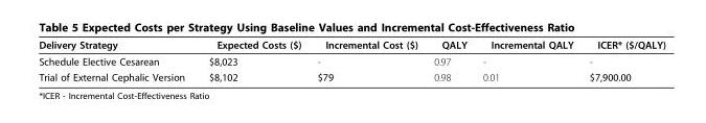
<table><thead><tr><td>Delivery Strategy</td><td>Expected Costs ($)</td><td>Incremental Cost ($)</td><td>QALY</td><td>Incremental QALY</td><td>ICER* ($/QALY)</td></tr></thead><tbody><tr><td>Schedule Elective Cesarean</td><td>$8,023</td><td>-</td><td>0.97</td><td>-</td><td>-</td></tr><tr><td>Trial of External Cephalic Version</td><td>$8,102</td><td>$79</td><td>0.98</td><td>0.01</td><td>$7,900.00</td></tr></tbody></table>